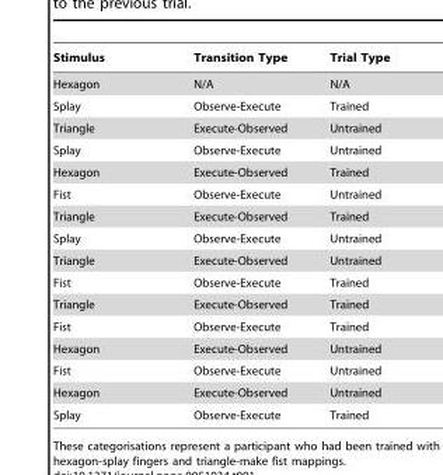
<table><thead><tr><td>Stimulus</td><td>Transition Type</td><td>Trial Type</td></tr></thead><tbody><tr><td>Hexagon</td><td>N/A</td><td>N/A</td></tr><tr><td>Splay</td><td>Observe-Execute</td><td>Trained</td></tr><tr><td>Triangle</td><td>Execute-Observed</td><td>Untrained</td></tr><tr><td>Splay</td><td>Observe-Execute</td><td>Untrained</td></tr><tr><td>Hexagon</td><td>Execute-Observed</td><td>Trained</td></tr><tr><td>Fist</td><td>Observe-Execute</td><td>Untrained</td></tr><tr><td>Triangle</td><td>Execute-Observed</td><td>Trained</td></tr><tr><td>Splay</td><td>Observe-Execute</td><td>Untrained</td></tr><tr><td>Triangle</td><td>Execute-Observed</td><td>Untrained</td></tr><tr><td>Fist</td><td>Observe-Execute</td><td>Trained</td></tr><tr><td>Triangle</td><td>Execute-Observed</td><td>Trained</td></tr><tr><td>Fist</td><td>Observe-Execute</td><td>Trained</td></tr><tr><td>Hexagon</td><td>Execute-Observed</td><td>Untrained</td></tr><tr><td>Fist</td><td>Observe-Execute</td><td>Untrained</td></tr><tr><td>Hexagon</td><td>Execute-Observed</td><td>Untrained</td></tr><tr><td>Splay</td><td>Observe-Execute</td><td>Trained</td></tr></tbody></table>